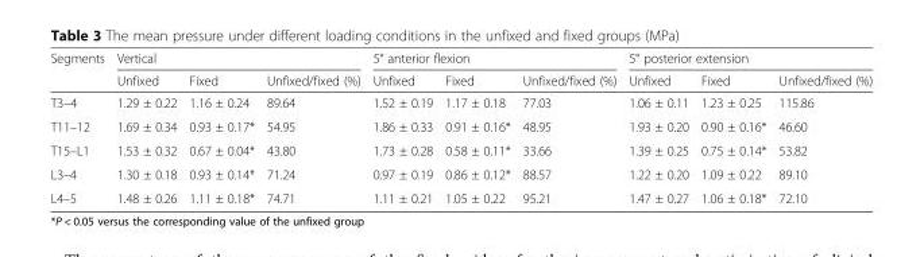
<table><thead><tr><td rowspan="2">Segments</td><td colspan="3">Vertical</td><td colspan="3">5° anterior flexion</td><td colspan="3">5° posterior extension</td></tr><tr><td>Unfixed</td><td>Fixed</td><td>Unfixed/fixed (%)</td><td>Unfixed</td><td>Fixed</td><td>Unfixed/fixed (%)</td><td>Unfixed</td><td>Fixed</td><td>Unfixed/fixed (%)</td></tr></thead><tbody><tr><td>T3–4</td><td>1.29 ± 0.22</td><td>1.16 ± 0.24</td><td>89.64</td><td>1.52 ± 0.19</td><td>1.17 ± 0.18</td><td>77.03</td><td>1.06 ± 0.11</td><td>1.23 ± 0.25</td><td>115.86</td></tr><tr><td>T11–12</td><td>1.69 ± 0.34</td><td>0.93 ± 0.17*</td><td>54.95</td><td>1.86 ± 0.33</td><td>0.91 ± 0.16*</td><td>48.95</td><td>1.93 ± 0.20</td><td>0.90 ± 0.16*</td><td>46.60</td></tr><tr><td>T15–L1</td><td>1.53 ± 0.32</td><td>0.67 ± 0.04*</td><td>43.80</td><td>1.73 ± 0.28</td><td>0.58 ± 0.11*</td><td>33.66</td><td>1.39 ± 0.25</td><td>0.75 ± 0.14*</td><td>53.82</td></tr><tr><td>L3–4</td><td>1.30 ± 0.18</td><td>0.93 ± 0.14*</td><td>71.24</td><td>0.97 ± 0.19</td><td>0.86 ± 0.12*</td><td>88.57</td><td>1.22 ± 0.20</td><td>1.09 ± 0.22</td><td>89.10</td></tr><tr><td>L4–5</td><td>1.48 ± 0.26</td><td>1.11 ± 0.18*</td><td>74.71</td><td>1.11 ± 0.21</td><td>1.05 ± 0.22</td><td>95.21</td><td>1.47 ± 0.27</td><td>1.06 ± 0.18*</td><td>72.10</td></tr></tbody></table>